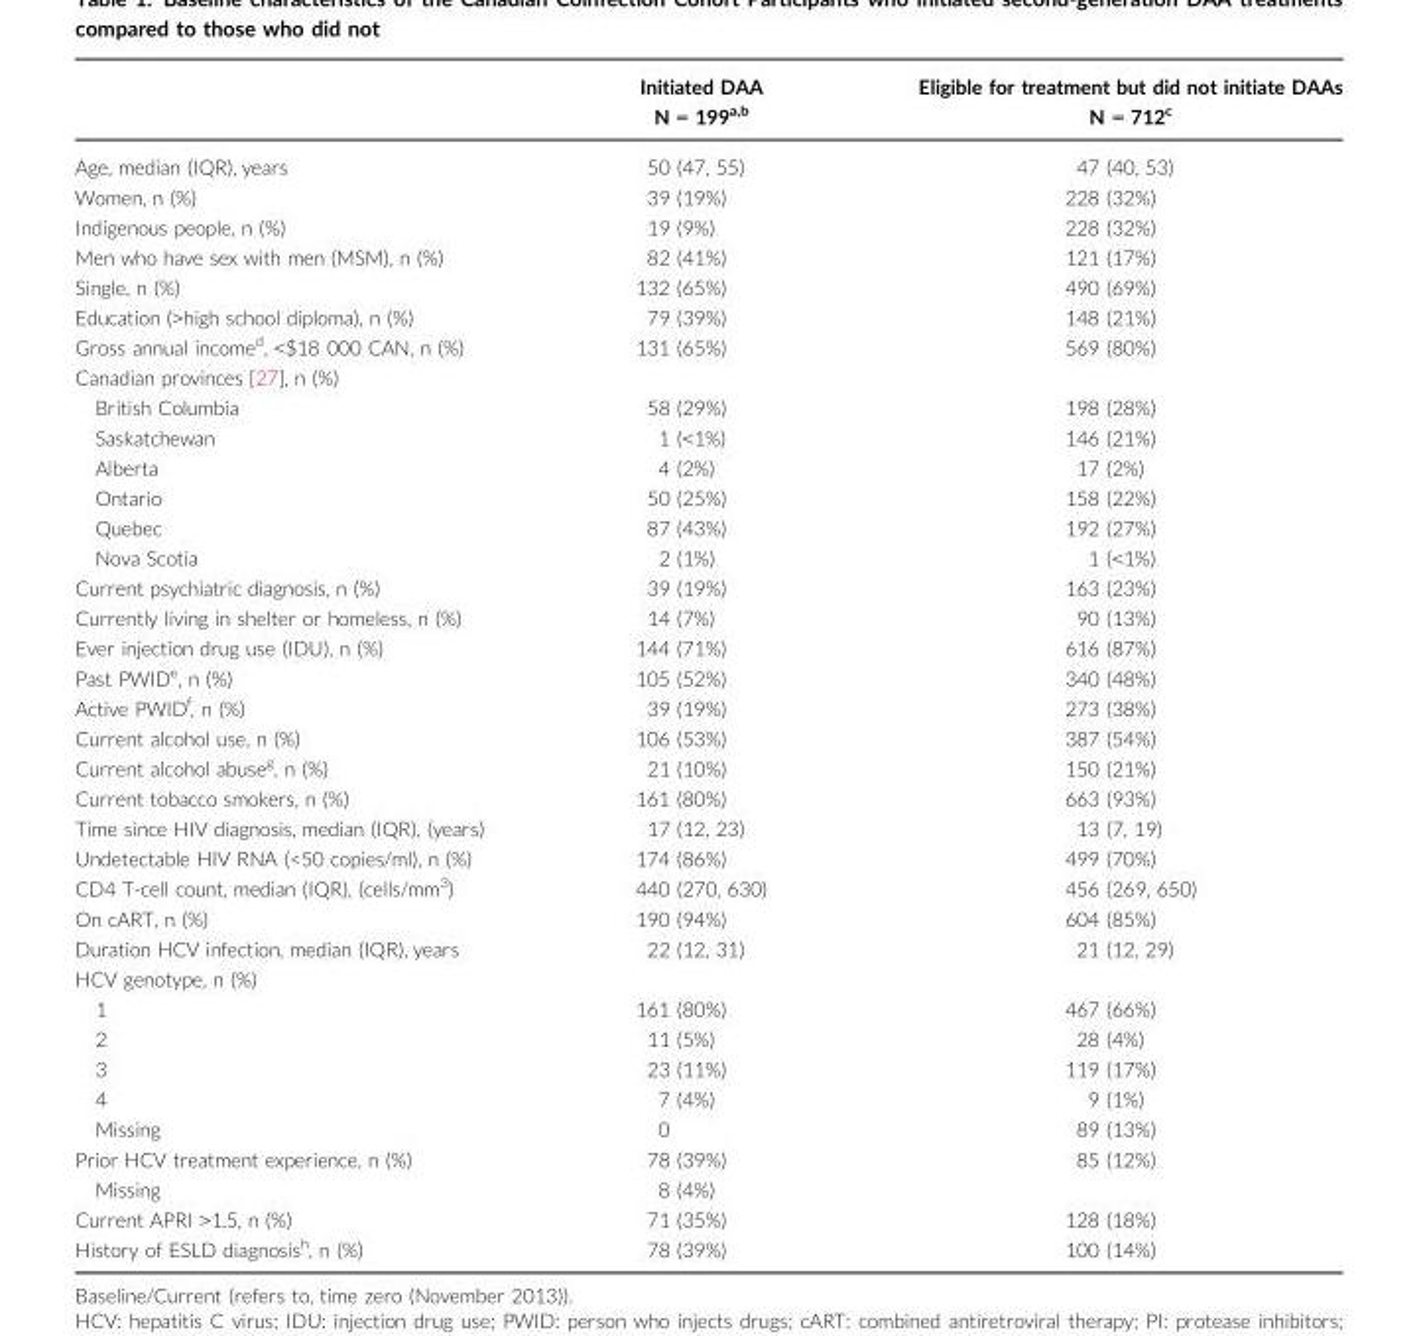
<table><thead><tr><td></td><td>Initiated DAA N = 199<sup>a,</sup>b</td><td>Eligible for treatment but did not initiate DAAs N = 712<sup>c</sup></td></tr></thead><tbody><tr><td>Age, median (IQR), years</td><td>50 (47, 55)</td><td>47 (40, 53)</td></tr><tr><td>Women, n (%)</td><td>39 (19%)</td><td>228 (32%)</td></tr><tr><td>Indigenous people, n (%)</td><td>19 (9%)</td><td>228 (32%)</td></tr><tr><td>Men who have sex with men (MSM), n (%)</td><td>82 (41%)</td><td>121 (17%)</td></tr><tr><td>Single, n (%)</td><td>132 (65%)</td><td>490 (69%)</td></tr><tr><td>Education (&gt;high school diploma), n (%)</td><td>79 (39%)</td><td>148 (21%)</td></tr><tr><td>Gross annual income<sup>d</sup>, &lt;$18 000 CAN, n (%)</td><td>131 (65%)</td><td>569 (80%)</td></tr><tr><td colspan="3">Canadian provinces [27], n (%)</td></tr><tr><td>British Columbia</td><td>58 (29%)</td><td>198 (28%)</td></tr><tr><td>Saskatchewan</td><td>1 (&lt;1%)</td><td>146 (21%)</td></tr><tr><td>Alberta</td><td>4 (2%)</td><td>17 (2%)</td></tr><tr><td>Ontario</td><td>50 (25%)</td><td>158 (22%)</td></tr><tr><td>Quebec</td><td>87 (43%)</td><td>192 (27%)</td></tr><tr><td>Nova Scotia</td><td>2 (1%)</td><td>1 (&lt;1%)</td></tr><tr><td>Current psychiatric diagnosis, n (%)</td><td>39 (19%)</td><td>163 (23%)</td></tr><tr><td>Currently living in shelter or homeless, n (%)</td><td>14 (7%)</td><td>90 (13%)</td></tr><tr><td>Ever injection drug use (IDU), n (%)</td><td>144 (71%)</td><td>616 (87%)</td></tr><tr><td>Past PWID<sup>e</sup>, n (%)</td><td>105 (52%)</td><td>340 (48%)</td></tr><tr><td>Active PWID<sup>f</sup>, n (%)</td><td>39 (19%)</td><td>273 (38%)</td></tr><tr><td>Current alcohol use, n (%)</td><td>106 (53%)</td><td>387 (54%)</td></tr><tr><td>Current alcohol abuse<sup>g</sup>, n (%)</td><td>21 (10%)</td><td>150 (21%)</td></tr><tr><td>Current tobacco smokers, n (%)</td><td>161 (80%)</td><td>663 (93%)</td></tr><tr><td>Time since HIV diagnosis, median (IQR), (years)</td><td>17 (12, 23)</td><td>13 (7, 19)</td></tr><tr><td>Undetectable HIV RNA (&lt;50 copies/ml), n (%)</td><td>174 (86%)</td><td>499 (70%)</td></tr><tr><td>CD4 T-cell count, median (IQR), (cells/mm<sup>3</sup>)</td><td>440 (270, 630)</td><td>456 (269, 650)</td></tr><tr><td>On cART, n (%)</td><td>190 (94%)</td><td>604 (85%)</td></tr><tr><td>Duration HCV infection, median (IQR), years</td><td>22 (12, 31)</td><td>21 (12, 29)</td></tr><tr><td colspan="3">HCV genotype, n (%)</td></tr><tr><td>1</td><td>161 (80%)</td><td>467 (66%)</td></tr><tr><td>2</td><td>11 (5%)</td><td>28 (4%)</td></tr><tr><td>3</td><td>23 (11%)</td><td>119 (17%)</td></tr><tr><td>4</td><td>7 (4%)</td><td>9 (1%)</td></tr><tr><td>Missing</td><td>0</td><td>89 (13%)</td></tr><tr><td>Prior HCV treatment experience, n (%)</td><td>78 (39%)</td><td>85 (12%)</td></tr><tr><td>Missing</td><td>8 (4%)</td><td></td></tr><tr><td>Current APRI &gt;1.5, n (%)</td><td>71 (35%)</td><td>128 (18%)</td></tr><tr><td>History of ESLD diagnosis<sup>h</sup>, n (%)</td><td>78 (39%)</td><td>100 (14%)</td></tr></tbody></table>